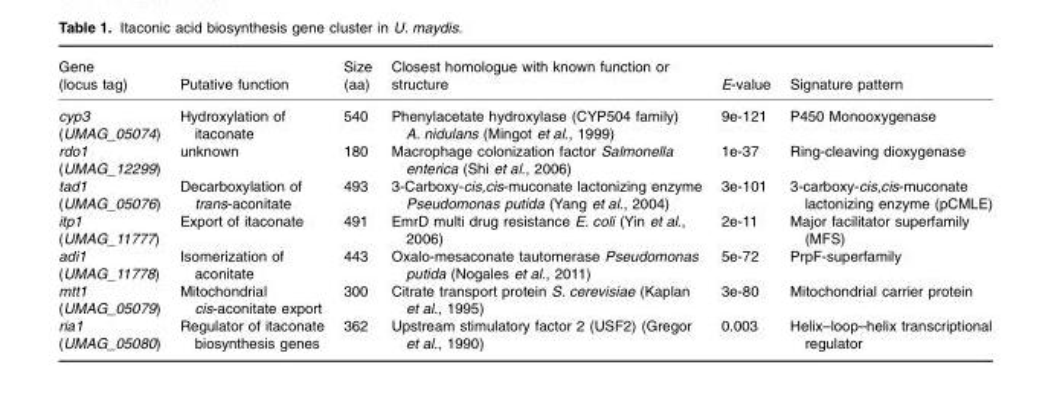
<table><thead><tr><td>Gene (locus tag)</td><td>Putative function</td><td>Size (aa)</td><td>Closest homologue with known function or structure</td><td>E-value</td><td>Signature pattern</td></tr></thead><tbody><tr><td>cyp3 (UMAG_05074)</td><td>Hydroxylation of itaconate</td><td>540</td><td>Phenylacetate hydroxylase (CYP504 family) A. nidulans (Mingot et al., 1999)</td><td>9e-121</td><td>P450 Monooxygenase</td></tr><tr><td>rdo1 (UMAG_12299)</td><td>unknown</td><td>180</td><td>Macrophage colonization factor Salmonella enterica (Shi et al., 2006)</td><td>1e-37</td><td>Ring-cleaving dioxygenase</td></tr><tr><td>tad1 (UMAG_05076)</td><td>Decarboxylation of trans-aconitate</td><td>493</td><td>3-Carboxy-cis,cis-muconate lactonizing enzyme Pseudomonas putida (Yang et al., 2004)</td><td>3e-101</td><td>3-carboxy-cis,cis-muconate lactonizing enzyme (pCMLE)</td></tr><tr><td>itp1 (UMAG_11777)</td><td>Export of itaconate</td><td>491</td><td>EmrD multi drug resistance E. coli (Yin et al., 2006)</td><td>2e-11</td><td>Major facilitator superfamily (MFS)</td></tr><tr><td>adi1 (UMAG_11778)</td><td>Isomerization of aconitate</td><td>443</td><td>Oxalo-mesaconate tautomerase Pseudomonas putida (Nogales et al., 2011)</td><td>5e-72</td><td>PrpF-superfamily</td></tr><tr><td>mtt1 (UMAG_05079)</td><td>Mitochondrial cis-aconitate export</td><td>300</td><td>Citrate transport protein S. cerevisiae (Kaplan et al., 1995)</td><td>3e-80</td><td>Mitochondrial carrier protein</td></tr><tr><td>ria1 (UMAG_05080)</td><td>Regulator of itaconate biosynthesis genes</td><td>362</td><td>Upstream stimulatory factor 2 (USF2) (Gregor et al., 1990)</td><td>0.003</td><td>Helix–loop–helix transcriptional regulator</td></tr></tbody></table>